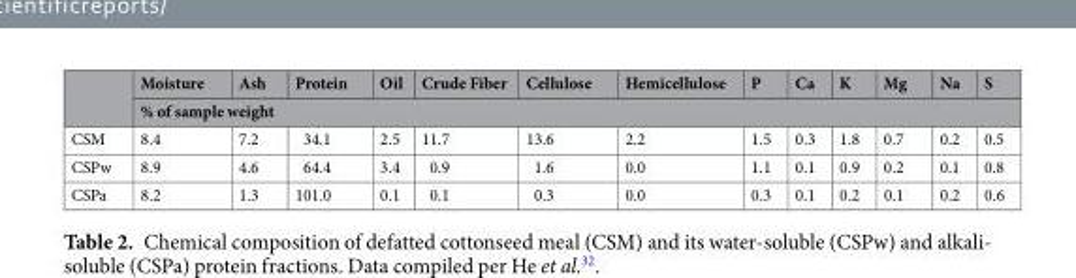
<table><thead><tr><td rowspan="2"></td><td>Moisture</td><td>Ash</td><td>Protein</td><td>Oil</td><td>Crude Fiber</td><td>Cellulose</td><td>Hemicellulose</td><td>P</td><td>Ca</td><td>K</td><td>Mg</td><td>Na</td><td>S</td></tr><tr><td colspan="13">% of sample weight</td></tr></thead><tbody><tr><td>CSM</td><td>8.4</td><td>7.2</td><td>34.1</td><td>2.5</td><td>11.7</td><td>13.6</td><td>2.2</td><td>1.5</td><td>0.3</td><td>1.8</td><td>0.7</td><td>0.2</td><td>0.5</td></tr><tr><td>CSPw</td><td>8.9</td><td>4.6</td><td>64.4</td><td>3.4</td><td>0.9</td><td>1.6</td><td>0.0</td><td>1.1</td><td>0.1</td><td>0.9</td><td>0.2</td><td>0.1</td><td>0.8</td></tr><tr><td>CSPa</td><td>8.2</td><td>1.3</td><td>101.0</td><td>0.1</td><td>0.1</td><td>0.3</td><td>0.0</td><td>0.3</td><td>0.1</td><td>0.2</td><td>0.1</td><td>0.2</td><td>0.6</td></tr></tbody></table>